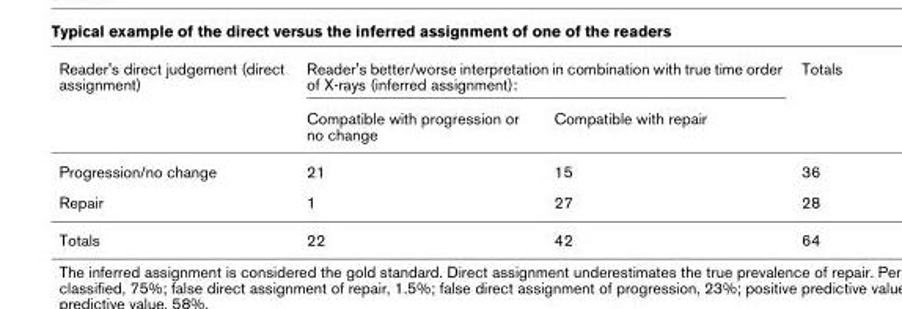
<table><thead><tr><td rowspan="2">Reader&#x27;s direct judgement (direct assignment)</td><td colspan="2">Reader&#x27;s better/worse interpretation in combination with true time order of X-rays (inferred assignment):</td><td rowspan="2">Totals</td></tr><tr><td>Compatible with progression or no change</td><td>Compatible with repair</td></tr></thead><tbody><tr><td>Progression/no change</td><td>21</td><td>15</td><td>36</td></tr><tr><td>Repair</td><td>1</td><td>27</td><td>28</td></tr><tr><td>Totals</td><td>22</td><td>42</td><td>64</td></tr></tbody></table>